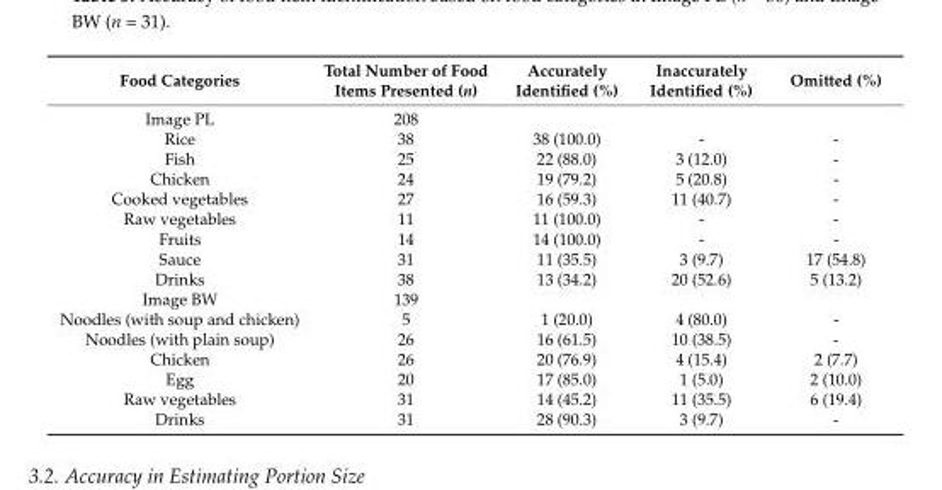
<table><thead><tr><td>Food Categories</td><td>Total Number of Food Items Presented (n)</td><td>Accurately Identified (%)</td><td>Inaccurately Identified (%)</td><td>Omitted (%)</td></tr></thead><tbody><tr><td>Image PL</td><td>208</td><td></td><td></td><td></td></tr><tr><td>Rice</td><td>38</td><td>38 (100.0)</td><td>-</td><td>-</td></tr><tr><td>Fish</td><td>25</td><td>22 (88.0)</td><td>3 (12.0)</td><td>-</td></tr><tr><td>Chicken</td><td>24</td><td>19 (79.2)</td><td>5 (20.8)</td><td>-</td></tr><tr><td>Cooked vegetables</td><td>27</td><td>16 (59.3)</td><td>11 (40.7)</td><td>-</td></tr><tr><td>Raw vegetables</td><td>11</td><td>11 (100.0)</td><td>-</td><td>-</td></tr><tr><td>Fruits</td><td>14</td><td>14 (100.0)</td><td>-</td><td>-</td></tr><tr><td>Sauce</td><td>31</td><td>11 (35.5)</td><td>3 (9.7)</td><td>17 (54.8)</td></tr><tr><td>Drinks</td><td>38</td><td>13 (34.2)</td><td>20 (52.6)</td><td>5 (13.2)</td></tr><tr><td>Image BW</td><td>139</td><td></td><td></td><td></td></tr><tr><td>Noodles (with soup and chicken)</td><td>5</td><td>1 (20.0)</td><td>4 (80.0)</td><td>-</td></tr><tr><td>Noodles (with plain soup)</td><td>26</td><td>16 (61.5)</td><td>10 (38.5)</td><td>-</td></tr><tr><td>Chicken</td><td>26</td><td>20 (76.9)</td><td>4 (15.4)</td><td>2 (7.7)</td></tr><tr><td>Egg</td><td>20</td><td>17 (85.0)</td><td>1 (5.0)</td><td>2 (10.0)</td></tr><tr><td>Raw vegetables</td><td>31</td><td>14 (45.2)</td><td>11 (35.5)</td><td>6 (19.4)</td></tr><tr><td>Drinks</td><td>31</td><td>28 (90.3)</td><td>3 (9.7)</td><td>-</td></tr></tbody></table>